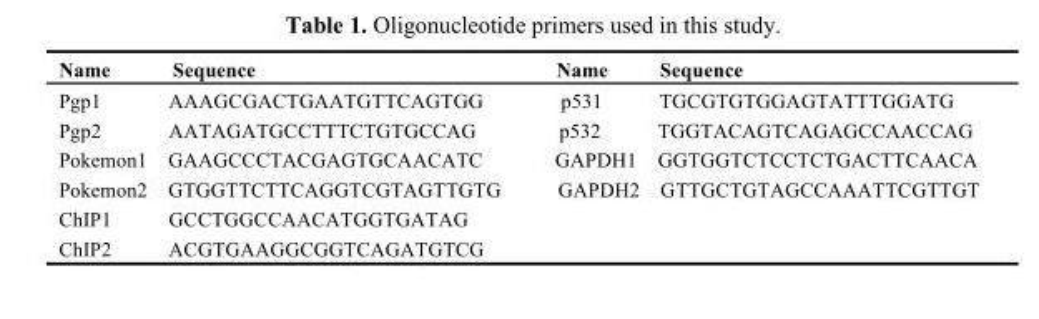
<table><thead><tr><td>Name</td><td>Sequence</td><td>Name</td><td>Sequence</td></tr></thead><tbody><tr><td>Pgp1</td><td>AAAGCGACTGAATGTTCAGTGG</td><td>p531</td><td>TGCGTGTGGAGTATTTGGATG</td></tr><tr><td>Pgp2</td><td>AATAGATGCCTTTCTGTGCCAG</td><td>p532</td><td>TGGTACAGTCAGAGCCAACCAG</td></tr><tr><td>Pokemon1</td><td>GAAGCCCTACGAGTGCAACATC</td><td>GAPDH1</td><td>GGTGGTCTCCTCTGACTTCAACA</td></tr><tr><td>Pokemon2</td><td>GTGGTTCTTCAGGTCGTAGTTGTG</td><td>GAPDH2</td><td>GTTGCTGTAGCCAAATTCGTTGT</td></tr><tr><td>ChIP1</td><td>GCCTGGCCAACATGGTGATAG</td><td></td><td></td></tr><tr><td>ChIP2</td><td>ACGTGAAGGCGGTCAGATGTCG</td><td></td><td></td></tr></tbody></table>